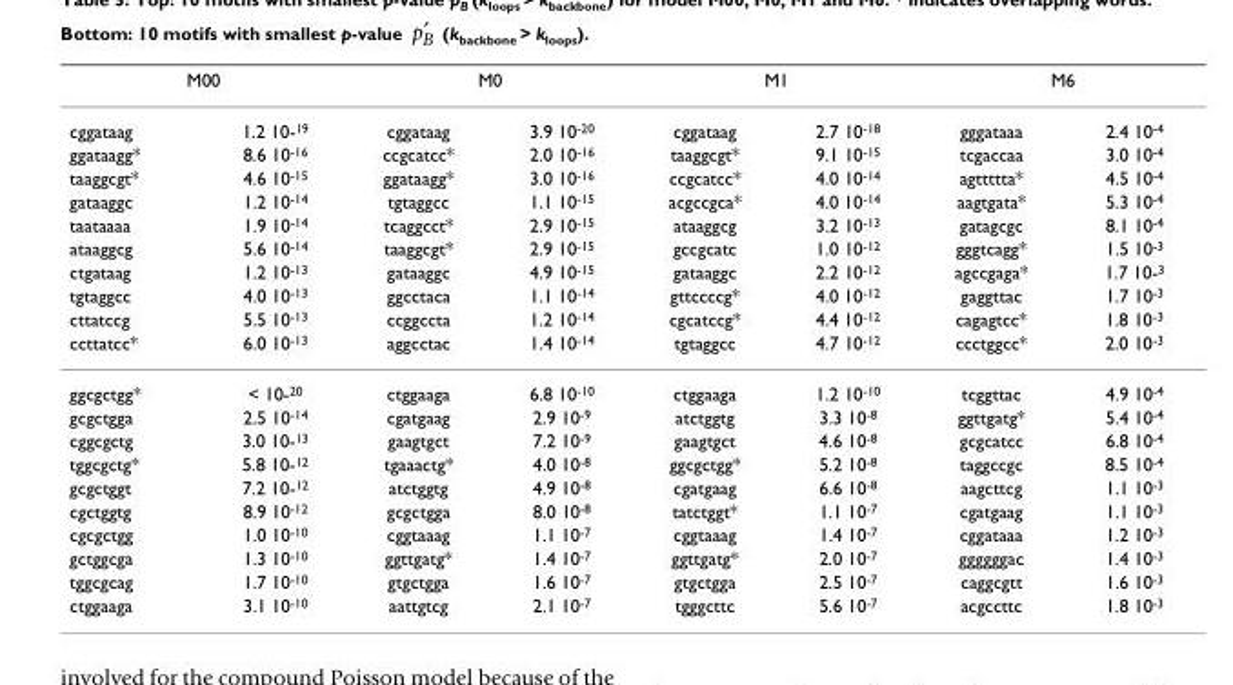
<table><thead><tr><td colspan="2">M00</td><td colspan="2">M0</td><td colspan="2">M1</td><td colspan="2">M6</td></tr><tr><td>cggataag</td><td>1.2 10-<sup>19</sup></td><td>cggataag</td><td>3.9 10<sup>-20</sup></td><td>cggataag</td><td>2.7 10<sup>-18</sup></td><td>gggataaa</td><td>2.4 10<sup>-4</sup></td></tr></thead><tbody><tr><td>ggataagg*</td><td>8.6 10<sup>-16</sup></td><td>ccgcatcc*</td><td>2.0 10<sup>-16</sup></td><td>taaggcgt*</td><td>9.1 10<sup>-15</sup></td><td>tcgaccaa</td><td>3.0 10<sup>-4</sup></td></tr><tr><td>taaggcgt*</td><td>4.6 10<sup>-15</sup></td><td>ggataagg*</td><td>3.0 10<sup>-16</sup></td><td>ccgcatcc*</td><td>4.0 10<sup>-14</sup></td><td>agttttta*</td><td>4.5 10<sup>-4</sup></td></tr><tr><td>gataaggc</td><td>1.2 10<sup>-14</sup></td><td>tgtaggcc</td><td>1.1 10<sup>-15</sup></td><td>acgccgca*</td><td>4.0 10<sup>-14</sup></td><td>aagtgata*</td><td>5.3 10<sup>-4</sup></td></tr><tr><td>taataaaa</td><td>1.9 10<sup>-14</sup></td><td>tcaggcct*</td><td>2.9 10<sup>-15</sup></td><td>ataaggcg</td><td>3.2 10<sup>-13</sup></td><td>gatagcgc</td><td>8.1 10<sup>-4</sup></td></tr><tr><td>ataaggcg</td><td>5.6 10<sup>-14</sup></td><td>taaggcgt*</td><td>2.9 10<sup>-15</sup></td><td>gccgcatc</td><td>1.0 10<sup>-12</sup></td><td>gggtcagg*</td><td>1.5 10<sup>-3</sup></td></tr><tr><td>ctgataag</td><td>1.2 10<sup>-13</sup></td><td>gataaggc</td><td>4.9 10<sup>-15</sup></td><td>gataaggc</td><td>2.2 10<sup>-12</sup></td><td>agccgaga*</td><td>1.7 10-<sup>3</sup></td></tr><tr><td>tgtaggcc</td><td>4.0 10<sup>-13</sup></td><td>ggcctaca</td><td>1.1 10<sup>-14</sup></td><td>gttccccg*</td><td>4.0 10<sup>-12</sup></td><td>gaggttac</td><td>1.7 10<sup>-3</sup></td></tr><tr><td>cttatccg</td><td>5.5 10<sup>-13</sup></td><td>ccggccta</td><td>1.2 10<sup>-14</sup></td><td>cgcatccg*</td><td>4.4 10<sup>-12</sup></td><td>cagagtcc*</td><td>1.8 10<sup>-3</sup></td></tr><tr><td>ccttatcc*</td><td>6.0 10<sup>-13</sup></td><td>aggcctac</td><td>1.4 10<sup>-14</sup></td><td>tgtaggcc</td><td>4.7 10<sup>-12</sup></td><td>ccctggcc*</td><td>2.0 10<sup>-3</sup></td></tr><tr><td>ggcgctgg*</td><td>&lt; 10-<sup>20</sup></td><td>ctggaaga</td><td>6.8 10<sup>-10</sup></td><td>ctggaaga</td><td>1.2 10<sup>-10</sup></td><td>tcggttac</td><td>4.9 10<sup>-4</sup></td></tr><tr><td>gcgctgga</td><td>2.5 10<sup>-14</sup></td><td>cgatgaag</td><td>2.9 10<sup>-9</sup></td><td>atctggtg</td><td>3.3 10<sup>-8</sup></td><td>ggttgatg*</td><td>5.4 10<sup>-4</sup></td></tr><tr><td>cggcgctg</td><td>3.0 10-<sup>13</sup></td><td>gaagtgct</td><td>7.2 10<sup>-9</sup></td><td>gaagtgct</td><td>4.6 10<sup>-8</sup></td><td>gcgcatcc</td><td>6.8 10<sup>-4</sup></td></tr><tr><td>tggcgctg*</td><td>5.8 10-<sup>12</sup></td><td>tgaaactg*</td><td>4.0 10<sup>-8</sup></td><td>ggcgctgg*</td><td>5.2 10<sup>-8</sup></td><td>taggccgc</td><td>8.5 10<sup>-4</sup></td></tr><tr><td>gcgctggt</td><td>7.2 10-<sup>12</sup></td><td>atctggtg</td><td>4.9 10<sup>-8</sup></td><td>cgatgaag</td><td>6.6 10<sup>-8</sup></td><td>aagcttcg</td><td>1.1 10<sup>-3</sup></td></tr><tr><td>cgctggtg</td><td>8.9 10<sup>-12</sup></td><td>gcgctgga</td><td>8.0 10<sup>-8</sup></td><td>tatctggt*</td><td>1.1 10<sup>-7</sup></td><td>cgatgaag</td><td>1.1 10<sup>-3</sup></td></tr><tr><td>cgcgctgg</td><td>1.0 10<sup>-10</sup></td><td>cggtaaag</td><td>1.1 10<sup>-7</sup></td><td>cggtaaag</td><td>1.4 10<sup>-7</sup></td><td>cggataaa</td><td>1.2 10<sup>-3</sup></td></tr><tr><td>gctggcga</td><td>1.3 10<sup>-10</sup></td><td>ggttgatg*</td><td>1.4 10<sup>-7</sup></td><td>ggttgatg*</td><td>2.0 10<sup>-7</sup></td><td>ggggggac</td><td>1.4 10<sup>-3</sup></td></tr><tr><td>tggcgcag</td><td>1.7 10<sup>-10</sup></td><td>gtgctgga</td><td>1.6 10<sup>-7</sup></td><td>gtgctgga</td><td>2.5 10<sup>-7</sup></td><td>caggcgtt</td><td>1.6 10<sup>-3</sup></td></tr><tr><td>ctggaaga</td><td>3.1 10<sup>-10</sup></td><td>aattgtcg</td><td>2.1 10<sup>-7</sup></td><td>tgggcttc</td><td>5.6 10<sup>-7</sup></td><td>acgccttc</td><td>1.8 10<sup>-3</sup></td></tr></tbody></table>